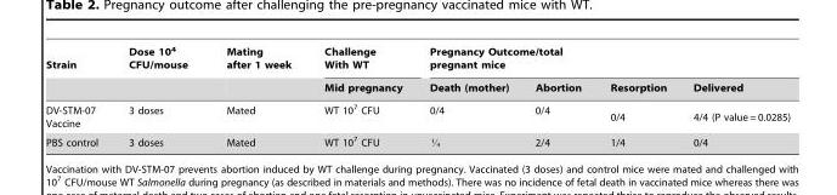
<table><thead><tr><td rowspan="2">Strain</td><td rowspan="2">Dose 10<sup>4</sup> CFU/mouse</td><td rowspan="2">Mating after 1 week</td><td rowspan="2">Challenge With WT Mid pregnancy</td><td colspan="4">Pregnancy Outcome/total pregnant mice</td></tr><tr><td>Death (mother)</td><td>Abortion</td><td>Resorption</td><td>Delivered</td></tr></thead><tbody><tr><td>DV-STM-07 Vaccine</td><td>3 doses</td><td>Mated</td><td>WT 10<sup>7</sup> CFU</td><td>0/4</td><td>0/4</td><td>0/4</td><td>4/4 (P value = 0.0285)</td></tr><tr><td>PBS control</td><td>3 doses</td><td>Mated</td><td>WT 10<sup>7</sup> CFU</td><td>J</td><td>2/4</td><td>1/4</td><td>0/4</td></tr></tbody></table>